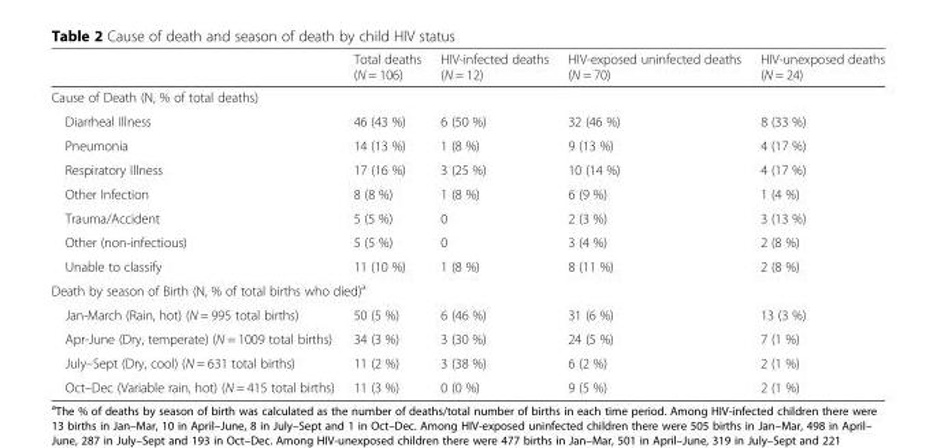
<table><thead><tr><td></td><td>Total deaths (N = 106)</td><td>HIV-infected deaths (N = 12)</td><td>HIV-exposed uninfected deaths (N = 70)</td><td>HIV-unexposed deaths (N = 24)</td></tr></thead><tbody><tr><td colspan="5">Cause of Death (N, % of total deaths)</td></tr><tr><td>Diarrheal Illness</td><td>46 (43 %)</td><td>6 (50 %)</td><td>32 (46 %)</td><td>8 (33 %)</td></tr><tr><td>Pneumonia</td><td>14 (13 %)</td><td>1 (8 %)</td><td>9 (13 %)</td><td>4 (17 %)</td></tr><tr><td>Respiratory Illness</td><td>17 (16 %)</td><td>3 (25 %)</td><td>10 (14 %)</td><td>4 (17 %)</td></tr><tr><td>Other Infection</td><td>8 (8 %)</td><td>1 (8 %)</td><td>6 (9 %)</td><td>1 (4 %)</td></tr><tr><td>Trauma/Accident</td><td>5 (5 %)</td><td>0</td><td>2 (3 %)</td><td>3 (13 %)</td></tr><tr><td>Other (non-infectious)</td><td>5 (5 %)</td><td>0</td><td>3 (4 %)</td><td>2 (8 %)</td></tr><tr><td>Unable to classify</td><td>11 (10 %)</td><td>1 (8 %)</td><td>8 (11 %)</td><td>2 (8 %)</td></tr><tr><td colspan="5">Death by season of Birth (N, % of total births who died)<sup>a</sup></td></tr><tr><td>Jan-March (Rain, hot) (N = 995 total births)</td><td>50 (5 %)</td><td>6 (46 %)</td><td>31 (6 %)</td><td>13 (3 %)</td></tr><tr><td>Apr-June (Dry, temperate) (N = 1009 total births)</td><td>34 (3 %)</td><td>3 (30 %)</td><td>24 (5 %)</td><td>7 (1 %)</td></tr><tr><td>July–Sept (Dry, cool) (N = 631 total births)</td><td>11 (2 %)</td><td>3 (38 %)</td><td>6 (2 %)</td><td>2 (1 %)</td></tr><tr><td>Oct–Dec (Variable rain, hot) (N = 415 total births)</td><td>11 (3 %)</td><td>0 (0 %)</td><td>9 (5 %)</td><td>2 (1 %)</td></tr></tbody></table>